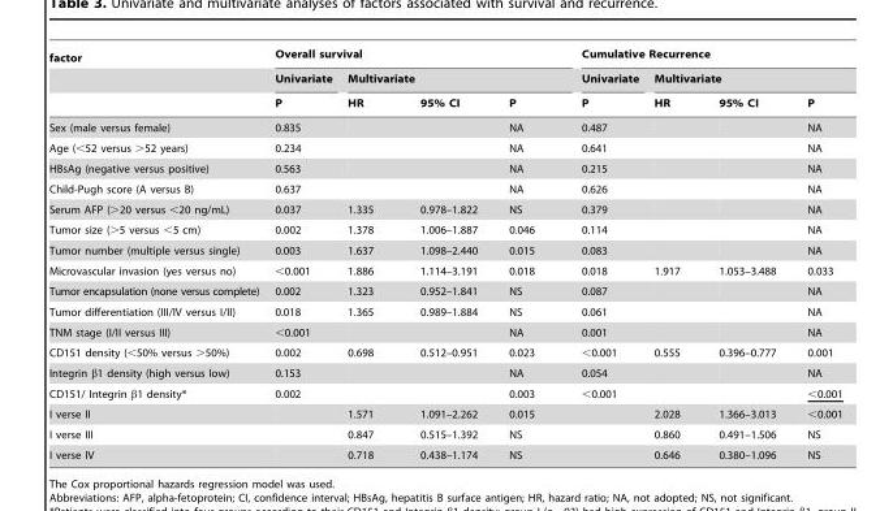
<table><thead><tr><td rowspan="3">factor</td><td colspan="4">Overall survival</td><td colspan="4">Cumulative Recurrence</td></tr><tr><td rowspan="2">Univariate P</td><td colspan="3">Multivariate</td><td rowspan="2">Univariate P</td><td colspan="3">Multivariate</td></tr><tr><td>HR</td><td>95% CI</td><td>P</td><td>HR</td><td>95% CI</td><td>P</td></tr></thead><tbody><tr><td>Sex (male versus female)</td><td>0.835</td><td></td><td></td><td>NA</td><td>0.487</td><td></td><td></td><td>NA</td></tr><tr><td>Age (&lt;52 versus &gt;52 years)</td><td>0.234</td><td></td><td></td><td>NA</td><td>0.641</td><td></td><td></td><td>NA</td></tr><tr><td>HBsAg (negative versus positive)</td><td>0.563</td><td></td><td></td><td>NA</td><td>0.215</td><td></td><td></td><td>NA</td></tr><tr><td>Child-Pugh score (A versus B)</td><td>0.637</td><td></td><td></td><td>NA</td><td>0.626</td><td></td><td></td><td>NA</td></tr><tr><td>Serum AFP (&gt;20 versus &lt;20 ng/mL)</td><td>0.037</td><td>1.335</td><td>0.978–1.822</td><td>NS</td><td>0.379</td><td></td><td></td><td>NA</td></tr><tr><td>Tumor size (&gt;5 versus &lt;5 cm)</td><td>0.002</td><td>1.378</td><td>1.006–1.887</td><td>0.046</td><td>0.114</td><td></td><td></td><td>NA</td></tr><tr><td>Tumor number (multiple versus single)</td><td>0.003</td><td>1.637</td><td>1.098–2.440</td><td>0.015</td><td>0.083</td><td></td><td></td><td>NA</td></tr><tr><td>Microvascular invasion (yes versus no)</td><td>&lt;0.001</td><td>1.886</td><td>1.114–3.191</td><td>0.018</td><td>0.018</td><td>1.917</td><td>1.053–3.488</td><td>0.033</td></tr><tr><td>Tumor encapsulation (none versus complete)</td><td>0.002</td><td>1.323</td><td>0.952–1.841</td><td>NS</td><td>0.087</td><td></td><td></td><td>NA</td></tr><tr><td>Tumor differentiation (III/IV versus I/II)</td><td>0.018</td><td>1.365</td><td>0.989–1.884</td><td>NS</td><td>0.061</td><td></td><td></td><td>NA</td></tr><tr><td>TNM stage (I/II versus III)</td><td>&lt;0.001</td><td></td><td></td><td>NA</td><td>0.001</td><td></td><td></td><td>NA</td></tr><tr><td>CD151 density (&lt;50% versus &gt;50%)</td><td>0.002</td><td>0.698</td><td>0.512–0.951</td><td>0.023</td><td>&lt;0.001</td><td>0.555</td><td>0.396–0.777</td><td>0.001</td></tr><tr><td>Integrin β1 density (high versus low)</td><td>0.153</td><td></td><td></td><td>NA</td><td>0.054</td><td></td><td></td><td>NA</td></tr><tr><td>CD151/ Integrin β1 density*</td><td>0.002</td><td></td><td></td><td>0.003</td><td>&lt;0.001</td><td></td><td></td><td>&lt;0.001</td></tr><tr><td>I verse II</td><td></td><td>1.571</td><td>1.091–2.262</td><td>0.015</td><td></td><td>2.028</td><td>1.366–3.013</td><td>&lt;0.001</td></tr><tr><td>I verse III</td><td></td><td>0.847</td><td>0.515–1.392</td><td>NS</td><td></td><td>0.860</td><td>0.491–1.506</td><td>NS</td></tr><tr><td>I verse IV</td><td></td><td>0.718</td><td>0.438–1.174</td><td>NS</td><td></td><td>0.646</td><td>0.380–1.096</td><td>NS</td></tr></tbody></table>